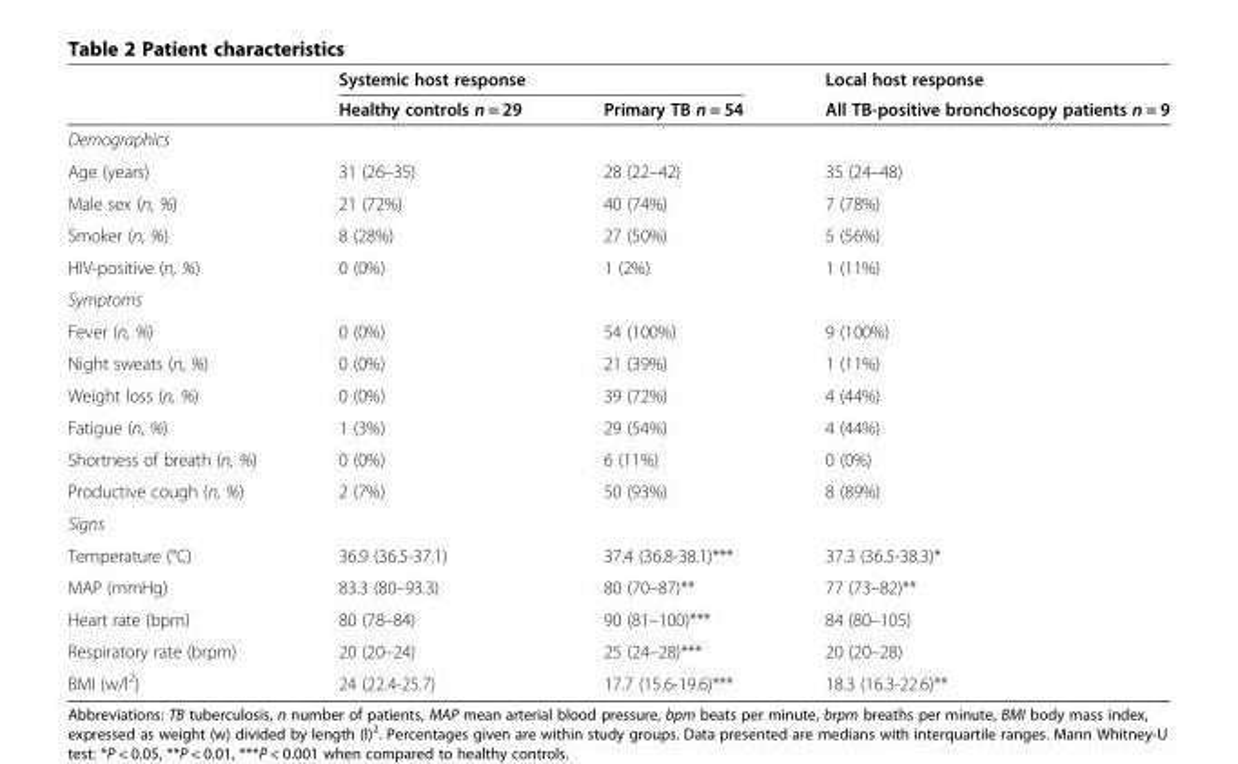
<table><thead><tr><td rowspan="2"></td><td colspan="2">Systemic host response</td><td rowspan="2">Local host response All TB-positive bronchoscopy patients n = 9</td></tr><tr><td>Healthy controls n = 29</td><td>Primary TB n = 54</td></tr></thead><tbody><tr><td colspan="4">Demographics</td></tr><tr><td>Age (years)</td><td>31 (26–35)</td><td>28 (22–42)</td><td>35 (24–48)</td></tr><tr><td>Male sex (n, %)</td><td>21 (72%)</td><td>40 (74%)</td><td>7 (78%)</td></tr><tr><td>Smoker (n, %)</td><td>8 (28%)</td><td>27 (50%)</td><td>5 (56%)</td></tr><tr><td>HIV-positive (n, %)</td><td>0 (0%)</td><td>1 (2%)</td><td>1 (11%)</td></tr><tr><td colspan="4">Symptoms</td></tr><tr><td>Fever (n, %)</td><td>0 (0%)</td><td>54 (100%)</td><td>9 (100%)</td></tr><tr><td>Night sweats (n, %)</td><td>0 (0%)</td><td>21 (39%)</td><td>1 (11%)</td></tr><tr><td>Weight loss (n, %)</td><td>0 (0%)</td><td>39 (72%)</td><td>4 (44%)</td></tr><tr><td>Fatigue (n, %)</td><td>1 (3%)</td><td>29 (54%)</td><td>4 (44%)</td></tr><tr><td>Shortness of breath (n, %)</td><td>0 (0%)</td><td>6 (11%)</td><td>0 (0%)</td></tr><tr><td>Productive cough (n, %)</td><td>2 (7%)</td><td>50 (93%)</td><td>8 (89%)</td></tr><tr><td colspan="4">Signs</td></tr><tr><td>Temperature (°C)</td><td>36.9 (36.5-37.1)</td><td>37.4 (36.8-38.1)***</td><td>37.3 (36.5-38.3)*</td></tr><tr><td>MAP (mmHg)</td><td>83.3 (80–93.3)</td><td>80 (70–87)**</td><td>77 (73–82)**</td></tr><tr><td>Heart rate (bpm)</td><td>80 (78–84)</td><td>90 (81–100)***</td><td>84 (80–105)</td></tr><tr><td>Respiratory rate (brpm)</td><td>20 (20–24)</td><td>25 (24–28)***</td><td>20 (20–28)</td></tr><tr><td>BMI (w/l<sup>2</sup>)</td><td>24 (22.4-25.7)</td><td>17.7 (15.6-19.6)***</td><td>18.3 (16.3-22.6)**</td></tr></tbody></table>